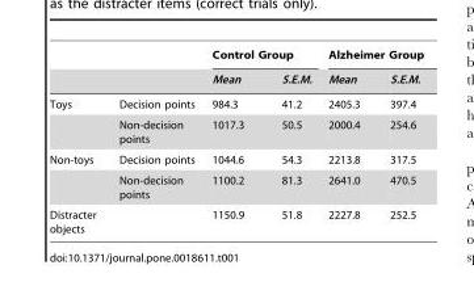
<table><thead><tr><td rowspan="2"></td><td rowspan="2"></td><td colspan="2">Control Group</td><td colspan="2">Alzheimer Group</td></tr><tr><td>Mean</td><td>S.E.M.</td><td>Mean</td><td>S.E.M.</td></tr></thead><tbody><tr><td rowspan="2">Toys</td><td>Decision points</td><td>984.3</td><td>41.2</td><td>2405.3</td><td>397.4</td></tr><tr><td>Non-decision points</td><td>1017.3</td><td>50.5</td><td>2000.4</td><td>254.6</td></tr><tr><td rowspan="2">Non-toys</td><td>Decision points</td><td>1044.6</td><td>54.3</td><td>2213.8</td><td>317.5</td></tr><tr><td>Non-decision points</td><td>1100.2</td><td>81.3</td><td>2641.0</td><td>470.5</td></tr><tr><td>Distracter objects</td><td></td><td>1150.9</td><td>51.8</td><td>2227.8</td><td>252.5</td></tr></tbody></table>